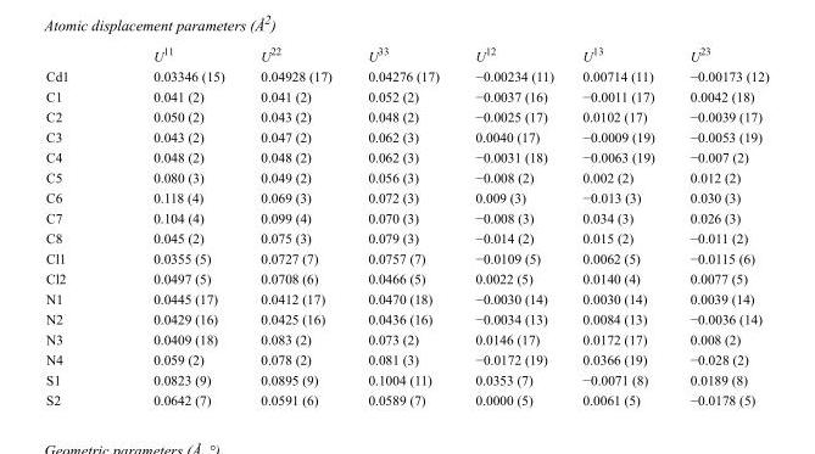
<table><thead><tr><td></td><td>U<sup>11</sup></td><td>U<sup>22</sup></td><td>U<sup>33</sup></td><td>U<sup>12</sup></td><td>U<sup>13</sup></td><td>U<sup>23</sup></td></tr></thead><tbody><tr><td>Cd1</td><td>0.03346 (15)</td><td>0.04928 (17)</td><td>0.04276 (17)</td><td>−0.00234 (11)</td><td>0.00714 (11)</td><td>−0.00173 (12)</td></tr><tr><td>C1</td><td>0.041 (2)</td><td>0.041 (2)</td><td>0.052 (2)</td><td>−0.0037 (16)</td><td>−0.0011 (17)</td><td>0.0042 (18)</td></tr><tr><td>C2</td><td>0.050 (2)</td><td>0.043 (2)</td><td>0.048 (2)</td><td>−0.0025 (17)</td><td>0.0102 (17)</td><td>−0.0039 (17)</td></tr><tr><td>C3</td><td>0.043 (2)</td><td>0.047 (2)</td><td>0.062 (3)</td><td>0.0040 (17)</td><td>−0.0009 (19)</td><td>−0.0053 (19)</td></tr><tr><td>C4</td><td>0.048 (2)</td><td>0.048 (2)</td><td>0.062 (3)</td><td>−0.0031 (18)</td><td>−0.0063 (19)</td><td>−0.007 (2)</td></tr><tr><td>C5</td><td>0.080 (3)</td><td>0.049 (2)</td><td>0.056 (3)</td><td>−0.008 (2)</td><td>0.002 (2)</td><td>0.012 (2)</td></tr><tr><td>C6</td><td>0.118 (4)</td><td>0.069 (3)</td><td>0.072 (3)</td><td>0.009 (3)</td><td>−0.013 (3)</td><td>0.030 (3)</td></tr><tr><td>C7</td><td>0.104 (4)</td><td>0.099 (4)</td><td>0.070 (3)</td><td>−0.008 (3)</td><td>0.034 (3)</td><td>0.026 (3)</td></tr><tr><td>C8</td><td>0.045 (2)</td><td>0.075 (3)</td><td>0.079 (3)</td><td>−0.014 (2)</td><td>0.015 (2)</td><td>−0.011 (2)</td></tr><tr><td>Cl1</td><td>0.0355 (5)</td><td>0.0727 (7)</td><td>0.0757 (7)</td><td>−0.0109 (5)</td><td>0.0062 (5)</td><td>−0.0115 (6)</td></tr><tr><td>Cl2</td><td>0.0497 (5)</td><td>0.0708 (6)</td><td>0.0466 (5)</td><td>0.0022 (5)</td><td>0.0140 (4)</td><td>0.0077 (5)</td></tr><tr><td>N1</td><td>0.0445 (17)</td><td>0.0412 (17)</td><td>0.0470 (18)</td><td>−0.0030 (14)</td><td>0.0030 (14)</td><td>0.0039 (14)</td></tr><tr><td>N2</td><td>0.0429 (16)</td><td>0.0425 (16)</td><td>0.0436 (16)</td><td>−0.0034 (13)</td><td>0.0084 (13)</td><td>−0.0036 (14)</td></tr><tr><td>N3</td><td>0.0409 (18)</td><td>0.083 (2)</td><td>0.073 (2)</td><td>0.0146 (17)</td><td>0.0172 (17)</td><td>0.008 (2)</td></tr><tr><td>N4</td><td>0.059 (2)</td><td>0.078 (2)</td><td>0.081 (3)</td><td>−0.0172 (19)</td><td>0.0366 (19)</td><td>−0.028 (2)</td></tr><tr><td>S1</td><td>0.0823 (9)</td><td>0.0895 (9)</td><td>0.1004 (11)</td><td>0.0353 (7)</td><td>−0.0071 (8)</td><td>0.0189 (8)</td></tr><tr><td>S2</td><td>0.0642 (7)</td><td>0.0591 (6)</td><td>0.0589 (7)</td><td>0.0000 (5)</td><td>0.0061 (5)</td><td>−0.0178 (5)</td></tr></tbody></table>